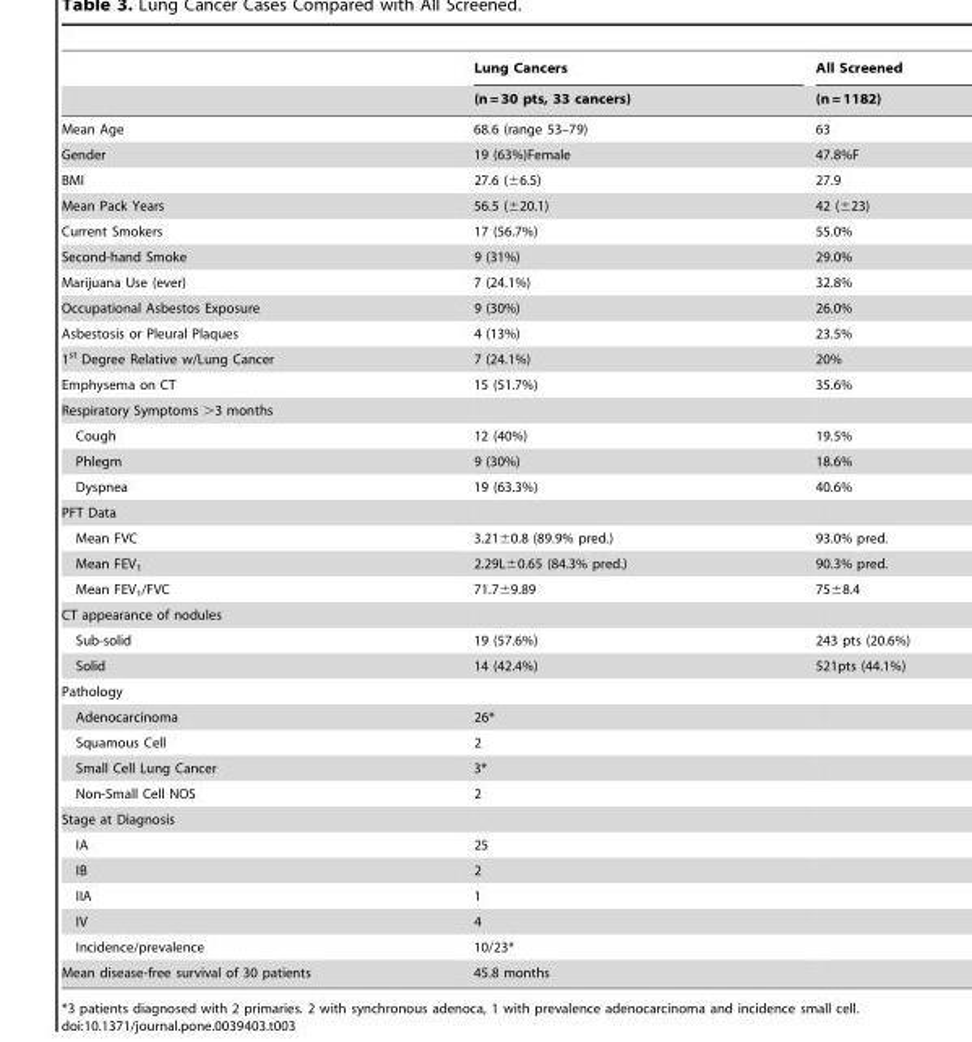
<table><thead><tr><td rowspan="2"></td><td rowspan="2">Lung Cancers (n = 30 pts, 33 cancers)</td><td rowspan="2">All Screened (n = 1182)</td></tr><tr></tr></thead><tbody><tr><td>Mean Age</td><td>68.6 (range 53–79)</td><td>63</td></tr><tr><td>Gender</td><td>19 (63%)Female</td><td>47.8%F</td></tr><tr><td>BMI</td><td>27.6 (±6.5)</td><td>27.9</td></tr><tr><td>Mean Pack Years</td><td>56.5 (±20.1)</td><td>42 (±23)</td></tr><tr><td>Current Smokers</td><td>17 (56.7%)</td><td>55.0%</td></tr><tr><td>Second-hand Smoke</td><td>9 (31%)</td><td>29.0%</td></tr><tr><td>Marijuana Use (ever)</td><td>7 (24.1%)</td><td>32.8%</td></tr><tr><td>Occupational Asbestos Exposure</td><td>9 (30%)</td><td>26.0%</td></tr><tr><td>Asbestosis or Pleural Plaques</td><td>4 (13%)</td><td>23.5%</td></tr><tr><td>1<sup>st</sup> Degree Relative w/Lung Cancer</td><td>7 (24.1%)</td><td>20%</td></tr><tr><td>Emphysema on CT</td><td>15 (51.7%)</td><td>35.6%</td></tr><tr><td colspan="3">Respiratory Symptoms &gt;3 months</td></tr><tr><td>Cough</td><td>12 (40%)</td><td>19.5%</td></tr><tr><td>Phlegm</td><td>9 (30%)</td><td>18.6%</td></tr><tr><td>Dyspnea</td><td>19 (63.3%)</td><td>40.6%</td></tr><tr><td colspan="3">PFT Data</td></tr><tr><td>Mean FVC</td><td>3.21±0.8 (89.9% pred.)</td><td>93.0% pred.</td></tr><tr><td>Mean FEV<sub>1</sub></td><td>2.29L±0.65 (84.3% pred.)</td><td>90.3% pred.</td></tr><tr><td>Mean FEV<sub>1</sub>/FVC</td><td>71.7±9.89</td><td>75±8.4</td></tr><tr><td colspan="3">CT appearance of nodules</td></tr><tr><td>Sub-solid</td><td>19 (57.6%)</td><td>243 pts (20.6%)</td></tr><tr><td>Solid</td><td>14 (42.4%)</td><td>521pts (44.1%)</td></tr><tr><td colspan="3">Pathology</td></tr><tr><td>Adenocarcinoma</td><td>26*</td><td></td></tr><tr><td>Squamous Cell</td><td>2</td><td></td></tr><tr><td>Small Cell Lung Cancer</td><td>3*</td><td></td></tr><tr><td>Non-Small Cell NOS</td><td>2</td><td></td></tr><tr><td colspan="3">Stage at Diagnosis</td></tr><tr><td>IA</td><td>25</td><td></td></tr><tr><td>IB</td><td>2</td><td></td></tr><tr><td>IIA</td><td>1</td><td></td></tr><tr><td>IV</td><td>4</td><td></td></tr><tr><td>Incidence/prevalence</td><td>10/23*</td><td></td></tr><tr><td>Mean disease-free survival of 30 patients</td><td>45.8 months</td><td></td></tr></tbody></table>